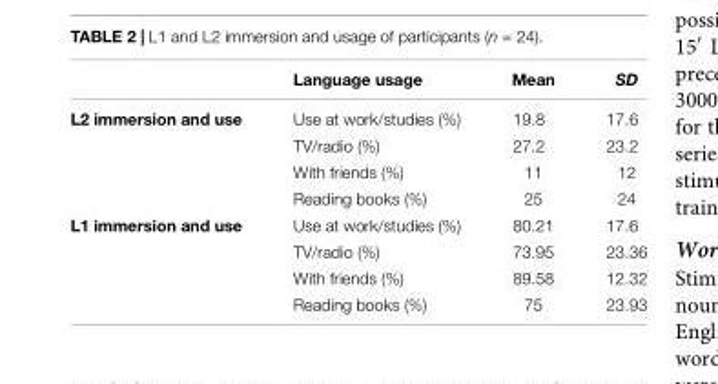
<table><thead><tr><td></td><td>Language usage</td><td>Mean</td><td>SD</td></tr></thead><tbody><tr><td rowspan="4">L2 immersion and use</td><td>Use at work/studies (%)</td><td>19.8</td><td>17.6</td></tr><tr><td>TV/radio (%)</td><td>27.2</td><td>23.2</td></tr><tr><td>With friends (%)</td><td>11</td><td>12</td></tr><tr><td>Reading books (%)</td><td>25</td><td>24</td></tr><tr><td rowspan="4">L1 immersion and use</td><td>Use at work/studies (%)</td><td>80.21</td><td>17.6</td></tr><tr><td>TV/radio (%)</td><td>73.95</td><td>23.36</td></tr><tr><td>With friends (%)</td><td>89.58</td><td>12.32</td></tr><tr><td>Reading books (%)</td><td>75</td><td>23.93</td></tr></tbody></table>